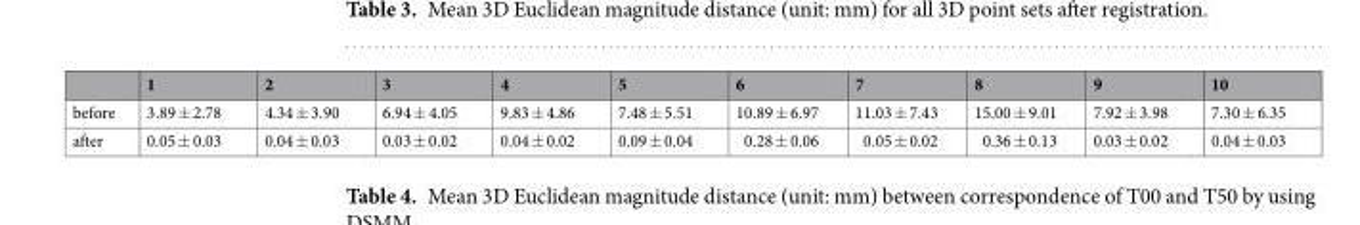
<table><thead><tr><td></td><td>1</td><td>2</td><td>3</td><td>4</td><td>5</td><td>6</td><td>7</td><td>8</td><td>9</td><td>10</td></tr></thead><tbody><tr><td>before</td><td>3.89 ± 2.78</td><td>4.34 ± 3.90</td><td>6.94 ± 4.05</td><td>9.83 ± 4.86</td><td>7.48 ± 5.51</td><td>10.89 ± 6.97</td><td>11.03 ± 7.43</td><td>15.00 ± 9.01</td><td>7.92 ± 3.98</td><td>7.30 ± 6.35</td></tr><tr><td>after</td><td>0.05 ± 0.03</td><td>0.04 ± 0.03</td><td>0.03 ± 0.02</td><td>0.04 ± 0.02</td><td>0.09 ± 0.04</td><td>0.28 ± 0.06</td><td>0.05 ± 0.02</td><td>0.36 ± 0.13</td><td>0.03 ± 0.02</td><td>0.04 ± 0.03</td></tr></tbody></table>